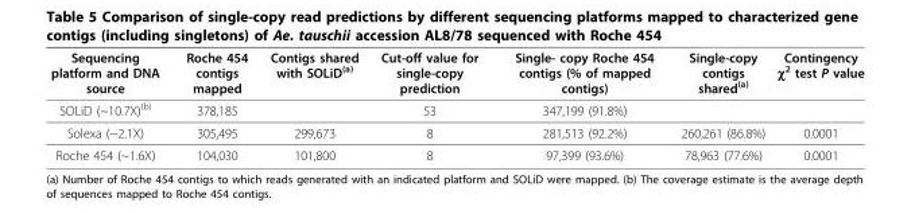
<table><thead><tr><td>Sequencing platform and DNA source</td><td>Roche 454 contigs mapped</td><td>Contigs shared with SOLiD<sup>(a)</sup></td><td>Cut-off value for single-copy prediction</td><td>Single- copy Roche 454 contigs (% of mapped contigs)</td><td>Single-copy contigs shared<sup>(a)</sup></td><td>Contingency χ<sup>2</sup> test P value</td></tr></thead><tbody><tr><td>SOLiD (~10.7X)<sup>(b)</sup></td><td>378,185</td><td></td><td>53</td><td>347,199 (91.8%)</td><td></td><td></td></tr><tr><td>Solexa (~2.1X)</td><td>305,495</td><td>299,673</td><td>8</td><td>281,513 (92.2%)</td><td>260,261 (86.8%)</td><td>0.0001</td></tr><tr><td>Roche 454 (~1.6X)</td><td>104,030</td><td>101,800</td><td>8</td><td>97,399 (93.6%)</td><td>78,963 (77.6%)</td><td>0.0001</td></tr></tbody></table>